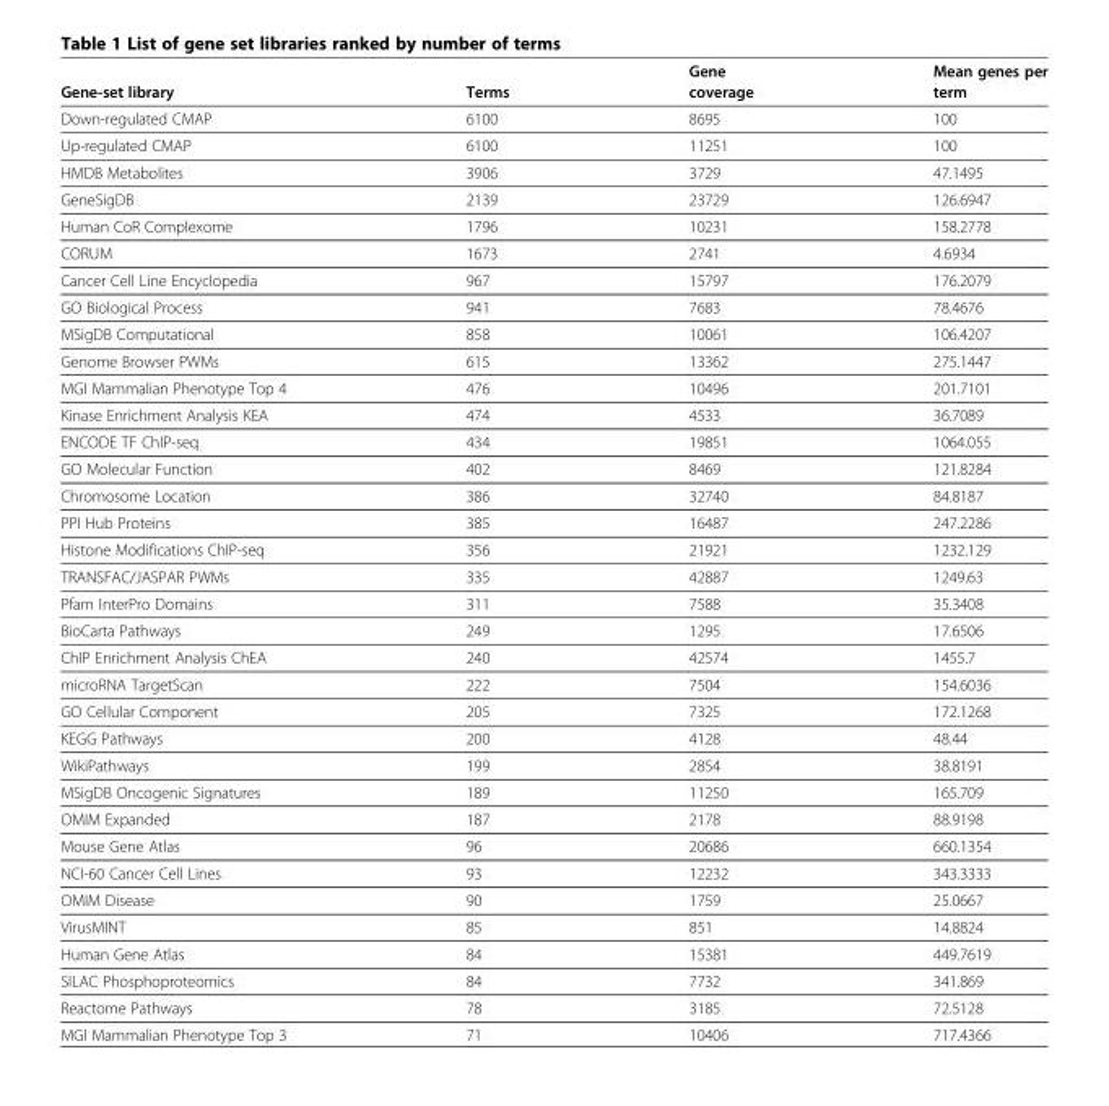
<table><thead><tr><td rowspan="2">Gene-set library</td><td rowspan="2">Terms</td><td rowspan="2">Gene coverage</td><td rowspan="2">Mean genes per term</td></tr><tr></tr></thead><tbody><tr><td>Down-regulated CMAP</td><td>6100</td><td>8695</td><td>100</td></tr><tr><td>Up-regulated CMAP</td><td>6100</td><td>11251</td><td>100</td></tr><tr><td>HMDB Metabolites</td><td>3906</td><td>3729</td><td>47.1495</td></tr><tr><td>GeneSigDB</td><td>2139</td><td>23729</td><td>126.6947</td></tr><tr><td>Human CoR Complexome</td><td>1796</td><td>10231</td><td>158.2778</td></tr><tr><td>CORUM</td><td>1673</td><td>2741</td><td>4.6934</td></tr><tr><td>Cancer Cell Line Encyclopedia</td><td>967</td><td>15797</td><td>176.2079</td></tr><tr><td>GO Biological Process</td><td>941</td><td>7683</td><td>78.4676</td></tr><tr><td>MSigDB Computational</td><td>858</td><td>10061</td><td>106.4207</td></tr><tr><td>Genome Browser PWMs</td><td>615</td><td>13362</td><td>275.1447</td></tr><tr><td>MGI Mammalian Phenotype Top 4</td><td>476</td><td>10496</td><td>201.7101</td></tr><tr><td>Kinase Enrichment Analysis KEA</td><td>474</td><td>4533</td><td>36.7089</td></tr><tr><td>ENCODE TF ChIP-seq</td><td>434</td><td>19851</td><td>1064.055</td></tr><tr><td>GO Molecular Function</td><td>402</td><td>8469</td><td>121.8284</td></tr><tr><td>Chromosome Location</td><td>386</td><td>32740</td><td>84.8187</td></tr><tr><td>PPI Hub Proteins</td><td>385</td><td>16487</td><td>247.2286</td></tr><tr><td>Histone Modifications ChIP-seq</td><td>356</td><td>21921</td><td>1232.129</td></tr><tr><td>TRANSFAC/JASPAR PWMs</td><td>335</td><td>42887</td><td>1249.63</td></tr><tr><td>Pfam InterPro Domains</td><td>311</td><td>7588</td><td>35.3408</td></tr><tr><td>BioCarta Pathways</td><td>249</td><td>1295</td><td>17.6506</td></tr><tr><td>ChIP Enrichment Analysis ChEA</td><td>240</td><td>42574</td><td>1455.7</td></tr><tr><td>microRNA TargetScan</td><td>222</td><td>7504</td><td>154.6036</td></tr><tr><td>GO Cellular Component</td><td>205</td><td>7325</td><td>172.1268</td></tr><tr><td>KEGG Pathways</td><td>200</td><td>4128</td><td>48.44</td></tr><tr><td>WikiPathways</td><td>199</td><td>2854</td><td>38.8191</td></tr><tr><td>MSigDB Oncogenic Signatures</td><td>189</td><td>11250</td><td>165.709</td></tr><tr><td>OMIM Expanded</td><td>187</td><td>2178</td><td>88.9198</td></tr><tr><td>Mouse Gene Atlas</td><td>96</td><td>20686</td><td>660.1354</td></tr><tr><td>NCI-60 Cancer Cell Lines</td><td>93</td><td>12232</td><td>343.3333</td></tr><tr><td>OMIM Disease</td><td>90</td><td>1759</td><td>25.0667</td></tr><tr><td>VirusMINT</td><td>85</td><td>851</td><td>14.8824</td></tr><tr><td>Human Gene Atlas</td><td>84</td><td>15381</td><td>449.7619</td></tr><tr><td>SILAC Phosphoproteomics</td><td>84</td><td>7732</td><td>341.869</td></tr><tr><td>Reactome Pathways</td><td>78</td><td>3185</td><td>72.5128</td></tr><tr><td>MGI Mammalian Phenotype Top 3</td><td>71</td><td>10406</td><td>717.4366</td></tr></tbody></table>